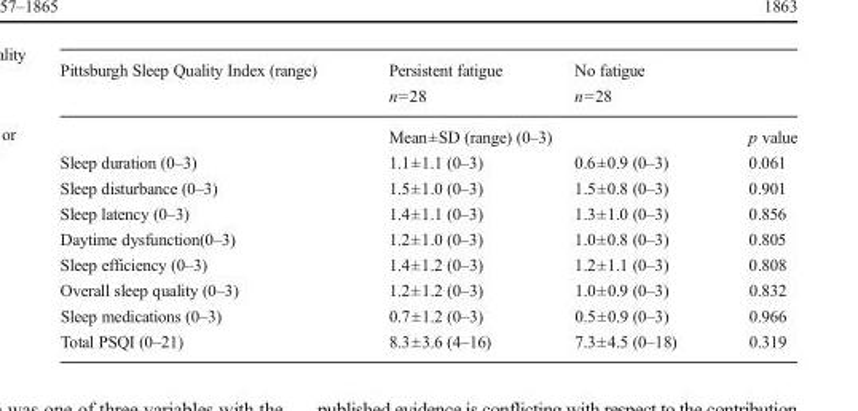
<table><thead><tr><td>Pittsburgh Sleep Quality Index (range)</td><td>Persistent fatigue n=28</td><td>No fatigue n=28</td><td></td></tr></thead><tbody><tr><td></td><td colspan="2">Mean±SD (range) (0–3)</td><td>p value</td></tr><tr><td>Sleep duration (0–3)</td><td>1.1±1.1 (0–3)</td><td>0.6±0.9 (0–3)</td><td>0.061</td></tr><tr><td>Sleep disturbance (0–3)</td><td>1.5±1.0 (0–3)</td><td>1.5±0.8 (0–3)</td><td>0.901</td></tr><tr><td>Sleep latency (0–3)</td><td>1.4±1.1 (0–3)</td><td>1.3±1.0 (0–3)</td><td>0.856</td></tr><tr><td>Daytime dysfunction(0–3)</td><td>1.2±1.0 (0–3)</td><td>1.0±0.8 (0–3)</td><td>0.805</td></tr><tr><td>Sleep efficiency (0–3)</td><td>1.4±1.2 (0–3)</td><td>1.2±1.1 (0–3)</td><td>0.808</td></tr><tr><td>Overall sleep quality (0–3)</td><td>1.2±1.2 (0–3)</td><td>1.0±0.9 (0–3)</td><td>0.832</td></tr><tr><td>Sleep medications (0–3)</td><td>0.7±1.2 (0–3)</td><td>0.5±0.9 (0–3)</td><td>0.966</td></tr><tr><td>Total PSQI (0–21)</td><td>8.3±3.6 (4–16)</td><td>7.3±4.5 (0–18)</td><td>0.319</td></tr></tbody></table>